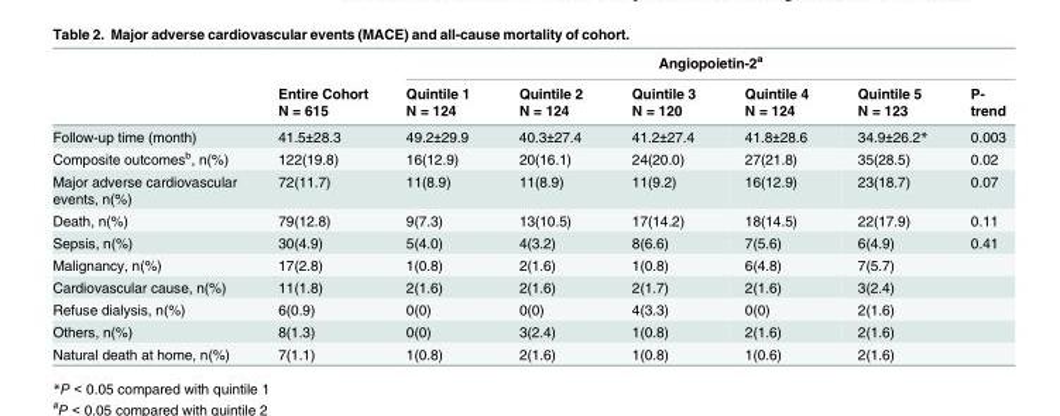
<table><thead><tr><td rowspan="2"></td><td rowspan="2">Entire Cohort N = 615</td><td colspan="6">Angiopoietin-2<sup>a</sup></td></tr><tr><td>Quintile 1 N = 124</td><td>Quintile 2 N = 124</td><td>Quintile 3 N = 120</td><td>Quintile 4 N = 124</td><td>Quintile 5 N = 123</td><td>P- trend</td></tr></thead><tbody><tr><td>Follow-up time (month)</td><td>41.5±28.3</td><td>49.2±29.9</td><td>40.3±27.4</td><td>41.2±27.4</td><td>41.8±28.6</td><td>34.9±26.2*</td><td>0.003</td></tr><tr><td>Composite outcomes<sup>b</sup>, n(%)</td><td>122(19.8)</td><td>16(12.9)</td><td>20(16.1)</td><td>24(20.0)</td><td>27(21.8)</td><td>35(28.5)</td><td>0.02</td></tr><tr><td>Major adverse cardiovascular events, n(%)</td><td>72(11.7)</td><td>11(8.9)</td><td>11(8.9)</td><td>11(9.2)</td><td>16(12.9)</td><td>23(18.7)</td><td>0.07</td></tr><tr><td>Death, n(%)</td><td>79(12.8)</td><td>9(7.3)</td><td>13(10.5)</td><td>17(14.2)</td><td>18(14.5)</td><td>22(17.9)</td><td>0.11</td></tr><tr><td>Sepsis, n(%)</td><td>30(4.9)</td><td>5(4.0)</td><td>4(3.2)</td><td>8(6.6)</td><td>7(5.6)</td><td>6(4.9)</td><td>0.41</td></tr><tr><td>Malignancy, n(%)</td><td>17(2.8)</td><td>1(0.8)</td><td>2(1.6)</td><td>1(0.8)</td><td>6(4.8)</td><td>7(5.7)</td><td></td></tr><tr><td>Cardiovascular cause, n(%)</td><td>11(1.8)</td><td>2(1.6)</td><td>2(1.6)</td><td>2(1.7)</td><td>2(1.6)</td><td>3(2.4)</td><td></td></tr><tr><td>Refuse dialysis, n(%)</td><td>6(0.9)</td><td>0(0)</td><td>0(0)</td><td>4(3.3)</td><td>0(0)</td><td>2(1.6)</td><td></td></tr><tr><td>Others, n(%)</td><td>8(1.3)</td><td>0(0)</td><td>3(2.4)</td><td>1(0.8)</td><td>2(1.6)</td><td>2(1.6)</td><td></td></tr><tr><td>Natural death at home, n(%)</td><td>7(1.1)</td><td>1(0.8)</td><td>2(1.6)</td><td>1(0.8)</td><td>1(0.6)</td><td>2(1.6)</td><td></td></tr></tbody></table>